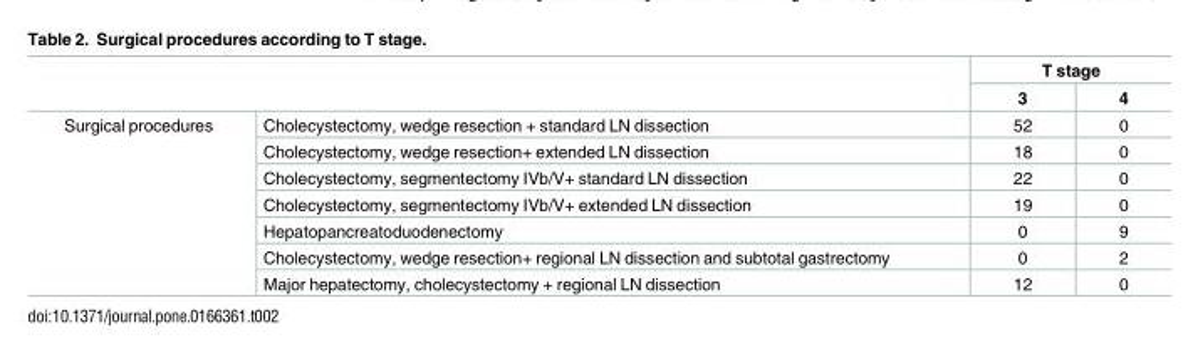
<table><thead><tr><td rowspan="2"></td><td rowspan="2"></td><td colspan="2">T stage</td></tr><tr><td>3</td><td>4</td></tr></thead><tbody><tr><td rowspan="7">Surgical procedures</td><td>Cholecystectomy, wedge resection + standard LN dissection</td><td>52</td><td>0</td></tr><tr><td>Cholecystectomy, wedge resection+ extended LN dissection</td><td>18</td><td>0</td></tr><tr><td>Cholecystectomy, segmentectomy IVb/V+ standard LN dissection</td><td>22</td><td>0</td></tr><tr><td>Cholecystectomy, segmentectomy IVb/V+ extended LN dissection</td><td>19</td><td>0</td></tr><tr><td>Hepatopancreatoduodenectomy</td><td>0</td><td>9</td></tr><tr><td>Cholecystectomy, wedge resection+ regional LN dissection and subtotal gastrectomy</td><td>0</td><td>2</td></tr><tr><td>Major hepatectomy, cholecystectomy + regional LN dissection</td><td>12</td><td>0</td></tr></tbody></table>